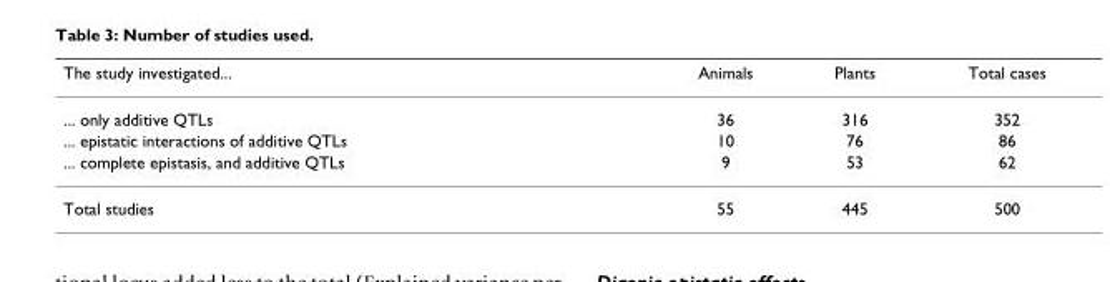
<table><thead><tr><td>The study investigated...</td><td>Animals</td><td>Plants</td><td>Total cases</td></tr></thead><tbody><tr><td>... only additive QTLs</td><td>36</td><td>316</td><td>352</td></tr><tr><td>... epistatic interactions of additive QTLs</td><td>10</td><td>76</td><td>86</td></tr><tr><td>... complete epistasis, and additive QTLs</td><td>9</td><td>53</td><td>62</td></tr><tr><td>Total studies</td><td>55</td><td>445</td><td>500</td></tr></tbody></table>